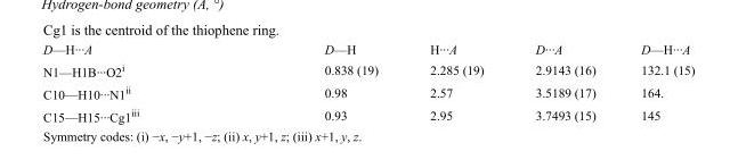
<table><tbody><tr><td>D—H···A</td><td>D—H</td><td>H···A</td><td>D···A</td><td>D—H···A</td></tr><tr><td>N1—H1B···O2<sup>i</sup></td><td>0.838 (19)</td><td>2.285 (19)</td><td>2.9143 (16)</td><td>132.1 (15)</td></tr><tr><td>C10—H10···N1<sup>ii</sup></td><td>0.98</td><td>2.57</td><td>3.5189 (17)</td><td>164.</td></tr><tr><td>C15—H15···Cg1<sup>iii</sup></td><td>0.93</td><td>2.95</td><td>3.7493 (15)</td><td>145</td></tr></tbody></table>